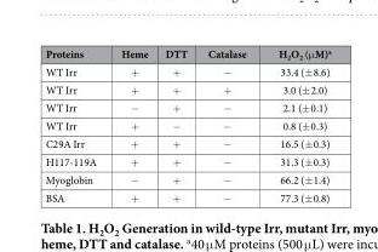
<table><thead><tr><td>Proteins</td><td>Heme</td><td>DTT</td><td>Catalase</td><td>H<sub>2</sub>O<sub>2</sub> (μ M)<sup>a</sup></td></tr></thead><tbody><tr><td>WT Irr</td><td>+</td><td>+</td><td>−</td><td>33.4 (± 8.6)</td></tr><tr><td>WT Irr</td><td>+</td><td>+</td><td>+</td><td>3.0 (± 2.0)</td></tr><tr><td>WT Irr</td><td>−</td><td>+</td><td>−</td><td>2.1 (± 0.1)</td></tr><tr><td>WT Irr</td><td>+</td><td>−</td><td>−</td><td>0.8 (± 0.3)</td></tr><tr><td>C29A Irr</td><td>+</td><td>+</td><td>−</td><td>16.5 (± 0.3)</td></tr><tr><td>H117-119A</td><td>+</td><td>+</td><td>−</td><td>31.3 (± 0.3)</td></tr><tr><td>Myoglobin</td><td>−</td><td>+</td><td>−</td><td>66.2 (± 1.4)</td></tr><tr><td>BSA</td><td>+</td><td>+</td><td>−</td><td>77.3 (± 0.8)</td></tr></tbody></table>